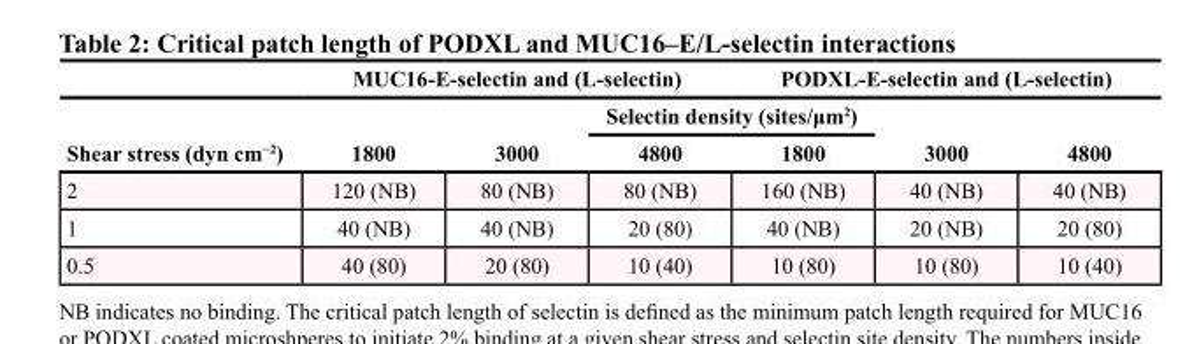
<table><thead><tr><td rowspan="3">Shear stress (dyn cm<sup>−2</sup>)</td><td colspan="3">MUC16-E-selectin and (L-selectin)</td><td colspan="3">PODXL-E-selectin and (L-selectin)</td></tr><tr><td colspan="6">Selectin density (sites/μm<sup>2</sup>)</td></tr><tr><td>1800</td><td>3000</td><td>4800</td><td>1800</td><td>3000</td><td>4800</td></tr></thead><tbody><tr><td>2</td><td>120 (NB)</td><td>80 (NB)</td><td>80 (NB)</td><td>160 (NB)</td><td>40 (NB)</td><td>40 (NB)</td></tr><tr><td>1</td><td>40 (NB)</td><td>40 (NB)</td><td>20 (80)</td><td>40 (NB)</td><td>20 (NB)</td><td>20 (80)</td></tr><tr><td>0.5</td><td>40 (80)</td><td>20 (80)</td><td>10 (40)</td><td>10 (80)</td><td>10 (80)</td><td>10 (40)</td></tr></tbody></table>